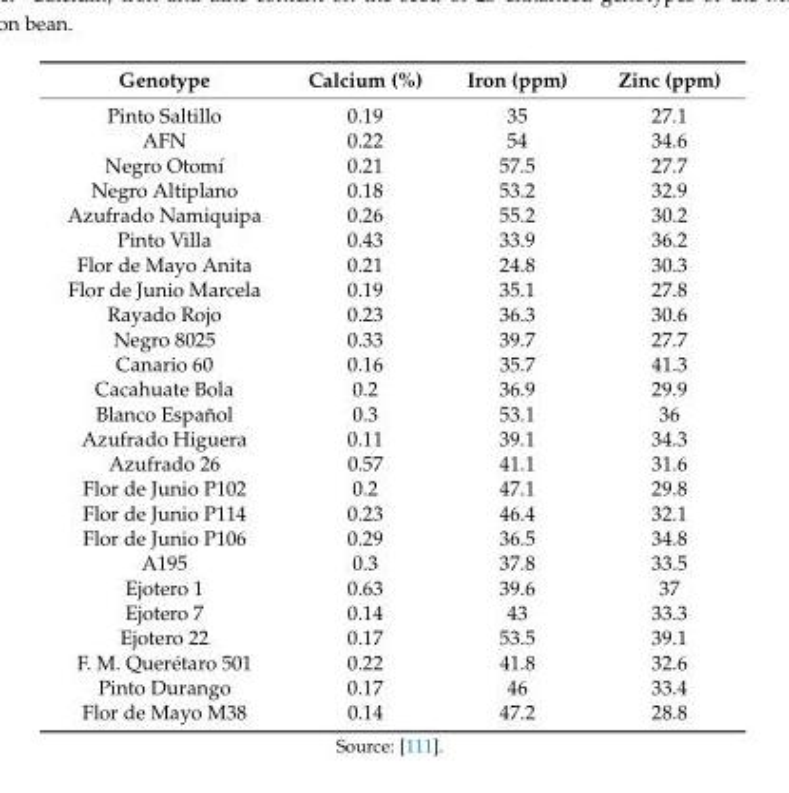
<table><thead><tr><td>Genotype</td><td>Calcium (%)</td><td>Iron (ppm)</td><td>Zinc (ppm)</td></tr></thead><tbody><tr><td>Pinto Saltillo</td><td>0.19</td><td>35</td><td>27.1</td></tr><tr><td>AFN</td><td>0.22</td><td>54</td><td>34.6</td></tr><tr><td>Negro Otomí</td><td>0.21</td><td>57.5</td><td>27.7</td></tr><tr><td>Negro Altiplano</td><td>0.18</td><td>53.2</td><td>32.9</td></tr><tr><td>Azufrado Namiquipa</td><td>0.26</td><td>55.2</td><td>30.2</td></tr><tr><td>Pinto Villa</td><td>0.43</td><td>33.9</td><td>36.2</td></tr><tr><td>Flor de Mayo Anita</td><td>0.21</td><td>24.8</td><td>30.3</td></tr><tr><td>Flor de Junio Marcela</td><td>0.19</td><td>35.1</td><td>27.8</td></tr><tr><td>Rayado Rojo</td><td>0.23</td><td>36.3</td><td>30.6</td></tr><tr><td>Negro 8025</td><td>0.33</td><td>39.7</td><td>27.7</td></tr><tr><td>Canario 60</td><td>0.16</td><td>35.7</td><td>41.3</td></tr><tr><td>Cacahuate Bola</td><td>0.2</td><td>36.9</td><td>29.9</td></tr><tr><td>Blanco Español</td><td>0.3</td><td>53.1</td><td>36</td></tr><tr><td>Azufrado Higuera</td><td>0.11</td><td>39.1</td><td>34.3</td></tr><tr><td>Azufrado 26</td><td>0.57</td><td>41.1</td><td>31.6</td></tr><tr><td>Flor de Junio P102</td><td>0.2</td><td>47.1</td><td>29.8</td></tr><tr><td>Flor de Junio P114</td><td>0.23</td><td>46.4</td><td>32.1</td></tr><tr><td>Flor de Junio P106</td><td>0.29</td><td>36.5</td><td>34.8</td></tr><tr><td>A195</td><td>0.3</td><td>37.8</td><td>33.5</td></tr><tr><td>Ejotero 1</td><td>0.63</td><td>39.6</td><td>37</td></tr><tr><td>Ejotero 7</td><td>0.14</td><td>43</td><td>33.3</td></tr><tr><td>Ejotero 22</td><td>0.17</td><td>53.5</td><td>39.1</td></tr><tr><td>F. M. Querétaro 501</td><td>0.22</td><td>41.8</td><td>32.6</td></tr><tr><td>Pinto Durango</td><td>0.17</td><td>46</td><td>33.4</td></tr><tr><td>Flor de Mayo M38</td><td>0.14</td><td>47.2</td><td>28.8</td></tr></tbody></table>